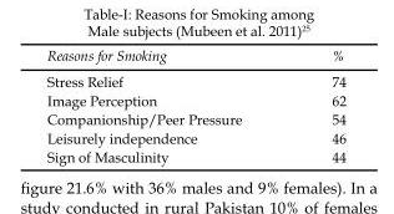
<table><thead><tr><td>Reasons for Smoking</td><td>%</td></tr></thead><tbody><tr><td>Stress Relief</td><td>74</td></tr><tr><td>Image Perception</td><td>62</td></tr><tr><td>Companionship/Peer Pressure</td><td>54</td></tr><tr><td>Leisurely independence</td><td>46</td></tr><tr><td>Sign of Masculinity</td><td>44</td></tr></tbody></table>